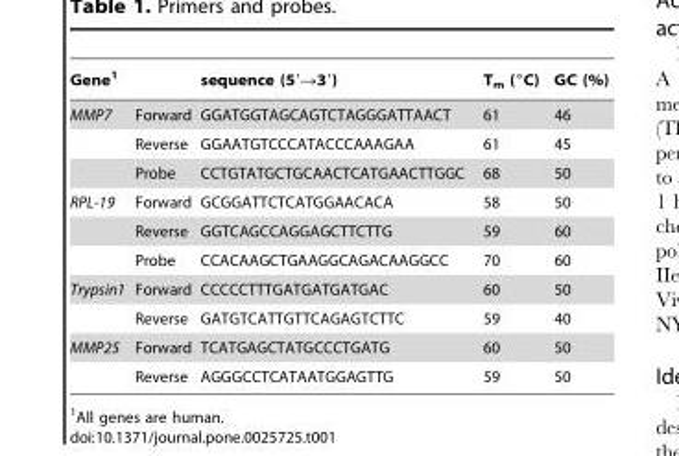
<table><thead><tr><td colspan="2">Gene<sup>1</sup></td><td rowspan="2">sequence (5′→3′) GGATGGTAGCAGTCTAGGGATTAACT</td><td rowspan="2">T<sub>m</sub> (°C) 61</td><td rowspan="2">GC (%) 46</td></tr><tr><td>MMP7</td><td>Forward</td></tr></thead><tbody><tr><td></td><td>Reverse</td><td>GGAATGTCCCATACCCAAAGAA</td><td>61</td><td>45</td></tr><tr><td></td><td>Probe</td><td>CCTGTATGCTGCAACTCATGAACTTGGC</td><td>68</td><td>50</td></tr><tr><td rowspan="3">RPL-19</td><td>Forward</td><td>GCGGATTCTCATGGAACACA</td><td>58</td><td>50</td></tr><tr><td>Reverse</td><td>GGTCAGCCAGGAGCTTCTTG</td><td>59</td><td>60</td></tr><tr><td>Probe</td><td>CCACAAGCTGAAGGCAGACAAGGCC</td><td>70</td><td>60</td></tr><tr><td rowspan="2">Trypsin1</td><td>Forward</td><td>CCCCCTTTGATGATGATGAC</td><td>60</td><td>50</td></tr><tr><td>Reverse</td><td>GATGTCATTGTTCAGAGTCTTC</td><td>59</td><td>40</td></tr><tr><td rowspan="2">MMP25</td><td>Forward</td><td>TCATGAGCTATGCCCTGATG</td><td>60</td><td>50</td></tr><tr><td>Reverse</td><td>AGGGCCTCATAATGGAGTTG</td><td>59</td><td>50</td></tr></tbody></table>